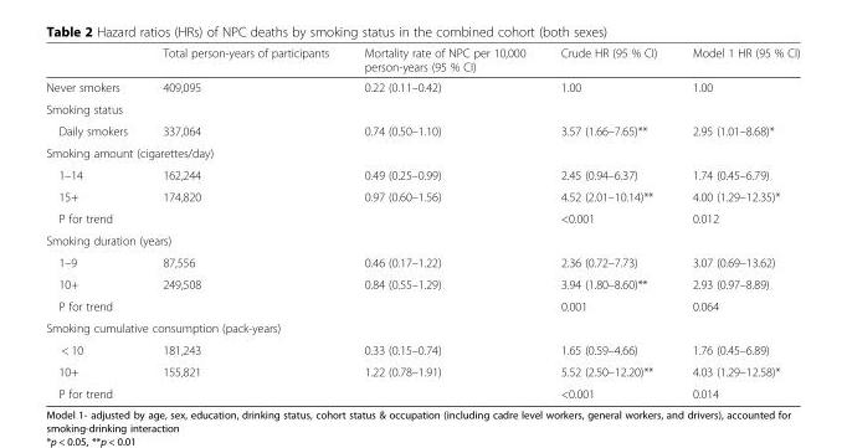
<table><thead><tr><td></td><td>Total person-years of participants</td><td>Mortality rate of NPC per 10,000 person-years (95 % CI)</td><td>Crude HR (95 % CI)</td><td>Model 1 HR (95 % CI)</td></tr></thead><tbody><tr><td>Never smokers</td><td>409,095</td><td>0.22 (0.11–0.42)</td><td>1.00</td><td>1.00</td></tr><tr><td colspan="5">Smoking status</td></tr><tr><td>Daily smokers</td><td>337,064</td><td>0.74 (0.50–1.10)</td><td>3.57 (1.66–7.65)**</td><td>2.95 (1.01–8.68)*</td></tr><tr><td colspan="5">Smoking amount (cigarettes/day)</td></tr><tr><td>1–14</td><td>162,244</td><td>0.49 (0.25–0.99)</td><td>2.45 (0.94–6.37)</td><td>1.74 (0.45–6.79)</td></tr><tr><td>15+</td><td>174,820</td><td>0.97 (0.60–1.56)</td><td>4.52 (2.01–10.14)**</td><td>4.00 (1.29–12.35)*</td></tr><tr><td>P for trend</td><td></td><td></td><td>&lt;0.001</td><td>0.012</td></tr><tr><td colspan="5">Smoking duration (years)</td></tr><tr><td>1–9</td><td>87,556</td><td>0.46 (0.17–1.22)</td><td>2.36 (0.72–7.73)</td><td>3.07 (0.69–13.62)</td></tr><tr><td>10+</td><td>249,508</td><td>0.84 (0.55–1.29)</td><td>3.94 (1.80–8.60)**</td><td>2.93 (0.97–8.89)</td></tr><tr><td>P for trend</td><td></td><td></td><td>0.001</td><td>0.064</td></tr><tr><td colspan="5">Smoking cumulative consumption (pack-years)</td></tr><tr><td>&lt; 10</td><td>181,243</td><td>0.33 (0.15–0.74)</td><td>1.65 (0.59–4.66)</td><td>1.76 (0.45–6.89)</td></tr><tr><td>10+</td><td>155,821</td><td>1.22 (0.78–1.91)</td><td>5.52 (2.50–12.20)**</td><td>4.03 (1.29–12.58)*</td></tr><tr><td>P for trend</td><td></td><td></td><td>&lt;0.001</td><td>0.014</td></tr></tbody></table>